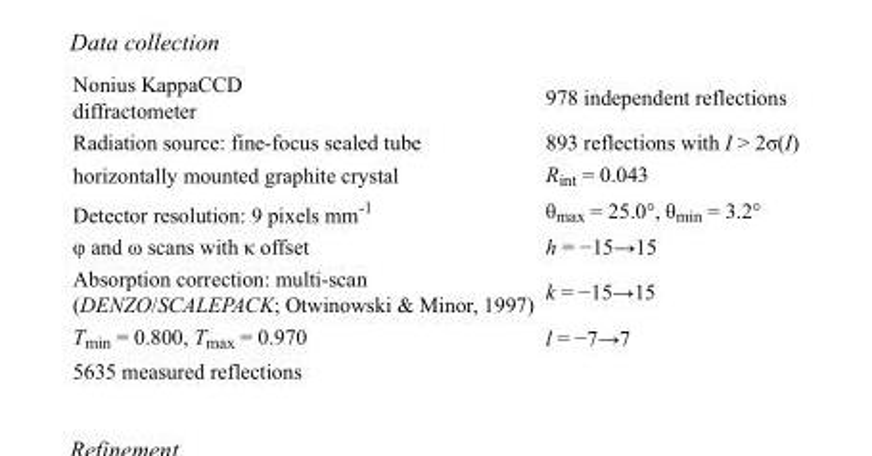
<table><tbody><tr><td>Nonius KappaCCD diffractometer</td><td>978 independent reflections</td></tr><tr><td>Radiation source: fine-focus sealed tube</td><td>893 reflections with I &gt; 2σ(I)</td></tr><tr><td>horizontally mounted graphite crystal</td><td>R<sub>int</sub> = 0.043</td></tr><tr><td>Detector resolution: 9 pixels mm<sup>-1</sup></td><td>θ<sub>max</sub> = 25.0°, θ<sub>min</sub> = 3.2°</td></tr><tr><td>φ and ω scans with κ offset</td><td>h = −15→15</td></tr><tr><td>Absorption correction: multi-scan (DENZO/SCALEPACK; Otwinowski &amp; Minor, 1997)</td><td>k = −15→15</td></tr><tr><td>T<sub>min</sub> = 0.800, T<sub>max</sub> = 0.970</td><td>l = −7→7</td></tr><tr><td>5635 measured reflections</td><td></td></tr></tbody></table>